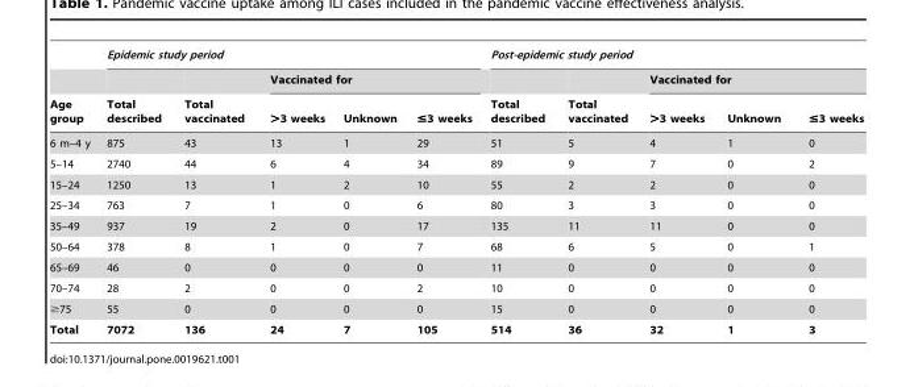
<table><thead><tr><td rowspan="3">Age group</td><td colspan="5">Epidemic study period</td><td colspan="5">Post-epidemic study period</td></tr><tr><td rowspan="2">Total described</td><td rowspan="2">Total vaccinated</td><td colspan="3">Vaccinated for</td><td rowspan="2">Total described</td><td rowspan="2">Total vaccinated</td><td colspan="3">Vaccinated for</td></tr><tr><td>&gt;3 weeks</td><td>Unknown</td><td>≤3 weeks</td><td>&gt;3 weeks</td><td>Unknown</td><td>≤3 weeks</td></tr></thead><tbody><tr><td>6 m–4 y</td><td>875</td><td>43</td><td>13</td><td>1</td><td>29</td><td>51</td><td>5</td><td>4</td><td>1</td><td>0</td></tr><tr><td>5–14</td><td>2740</td><td>44</td><td>6</td><td>4</td><td>34</td><td>89</td><td>9</td><td>7</td><td>0</td><td>2</td></tr><tr><td>15–24</td><td>1250</td><td>13</td><td>1</td><td>2</td><td>10</td><td>55</td><td>2</td><td>2</td><td>0</td><td>0</td></tr><tr><td>25–34</td><td>763</td><td>7</td><td>1</td><td>0</td><td>6</td><td>80</td><td>3</td><td>3</td><td>0</td><td>0</td></tr><tr><td>35–49</td><td>937</td><td>19</td><td>2</td><td>0</td><td>17</td><td>135</td><td>11</td><td>11</td><td>0</td><td>0</td></tr><tr><td>50–64</td><td>378</td><td>8</td><td>1</td><td>0</td><td>7</td><td>68</td><td>6</td><td>5</td><td>0</td><td>1</td></tr><tr><td>65–69</td><td>46</td><td>0</td><td>0</td><td>0</td><td>0</td><td>11</td><td>0</td><td>0</td><td>0</td><td>0</td></tr><tr><td>70–74</td><td>28</td><td>2</td><td>0</td><td>0</td><td>2</td><td>10</td><td>0</td><td>0</td><td>0</td><td>0</td></tr><tr><td>≥75</td><td>55</td><td>0</td><td>0</td><td>0</td><td>0</td><td>15</td><td>0</td><td>0</td><td>0</td><td>0</td></tr><tr><td>Total</td><td>7072</td><td>136</td><td>24</td><td>7</td><td>105</td><td>514</td><td>36</td><td>32</td><td>1</td><td>3</td></tr></tbody></table>